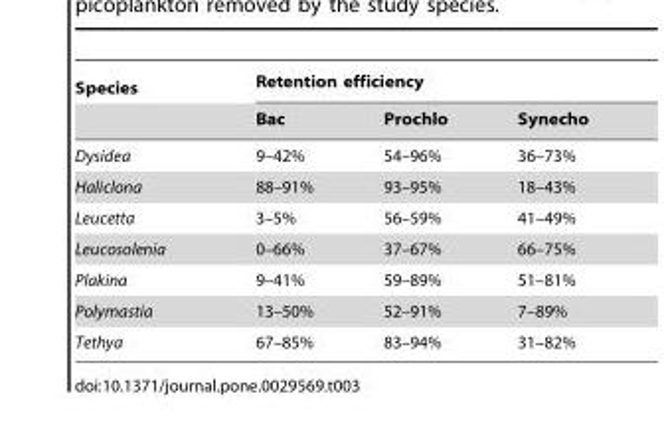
<table><thead><tr><td rowspan="2">Species</td><td colspan="3">Retention efficiency</td></tr><tr><td>Bac</td><td>Prochlo</td><td>Synecho</td></tr></thead><tbody><tr><td>Dysidea</td><td>9–42%</td><td>54–96%</td><td>36–73%</td></tr><tr><td>Haliclona</td><td>88–91%</td><td>93–95%</td><td>18–43%</td></tr><tr><td>Leucetta</td><td>3–5%</td><td>56–59%</td><td>41–49%</td></tr><tr><td>Leucosolenia</td><td>0–66%</td><td>37–67%</td><td>66–75%</td></tr><tr><td>Plakina</td><td>9–41%</td><td>59–89%</td><td>51–81%</td></tr><tr><td>Polymastia</td><td>13–50%</td><td>52–91%</td><td>7–89%</td></tr><tr><td>Tethya</td><td>67–85%</td><td>83–94%</td><td>31–82%</td></tr></tbody></table>